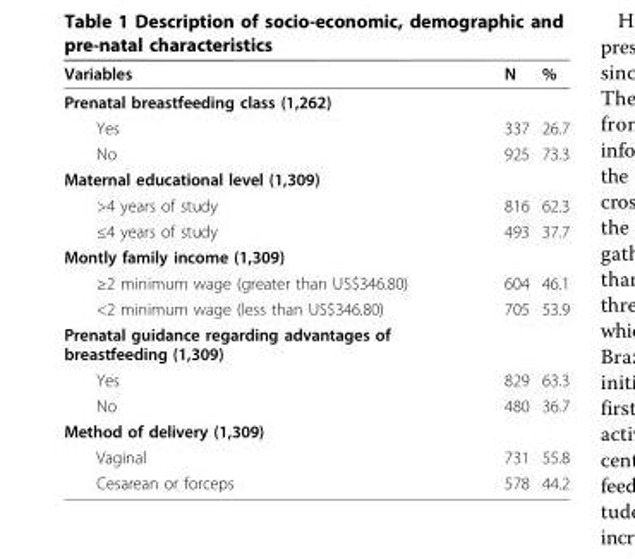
<table><thead><tr><td>Variables</td><td>N</td><td>%</td></tr></thead><tbody><tr><td colspan="3">Prenatal breastfeeding class (1,262)</td></tr><tr><td>Yes</td><td>337</td><td>26.7</td></tr><tr><td>No</td><td>925</td><td>73.3</td></tr><tr><td colspan="3">Maternal educational level (1,309)</td></tr><tr><td>&gt;4 years of study</td><td>816</td><td>62.3</td></tr><tr><td>≤4 years of study</td><td>493</td><td>37.7</td></tr><tr><td colspan="3">Montly family income (1,309)</td></tr><tr><td>≥2 minimum wage (greater than US$346.80)</td><td>604</td><td>46.1</td></tr><tr><td>&lt;2 minimum wage (less than US$346.80)</td><td>705</td><td>53.9</td></tr><tr><td colspan="3">Prenatal guidance regarding advantages of breastfeeding (1,309)</td></tr><tr><td>Yes</td><td>829</td><td>63.3</td></tr><tr><td>No</td><td>480</td><td>36.7</td></tr><tr><td colspan="3">Method of delivery (1,309)</td></tr><tr><td>Vaginal</td><td>731</td><td>55.8</td></tr><tr><td>Cesarean or forceps</td><td>578</td><td>44.2</td></tr></tbody></table>